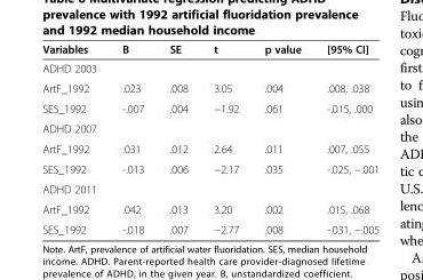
<table><thead><tr><td>Variables</td><td>B</td><td>SE</td><td>t</td><td>p value</td><td>[95% CI]</td></tr></thead><tbody><tr><td colspan="6">ADHD 2003</td></tr><tr><td>ArtF_1992</td><td>.023</td><td>.008</td><td>3.05</td><td>.004</td><td>.008, .038</td></tr><tr><td>SES_1992</td><td>-.007</td><td>.004</td><td>−1.92</td><td>.061</td><td>-.015, .000</td></tr><tr><td colspan="6">ADHD 2007</td></tr><tr><td>ArtF_1992</td><td>.031</td><td>.012</td><td>2.64</td><td>.011</td><td>.007, .055</td></tr><tr><td>SES_1992</td><td>-.013</td><td>.006</td><td>−2.17</td><td>.035</td><td>-.025, −.001</td></tr><tr><td colspan="6">ADHD 2011</td></tr><tr><td>ArtF_1992</td><td>.042</td><td>.013</td><td>3.20</td><td>.002</td><td>.015, .068</td></tr><tr><td>SES_1992</td><td>-.018</td><td>.007</td><td>−2.77</td><td>.008</td><td>-.031, −.005</td></tr></tbody></table>